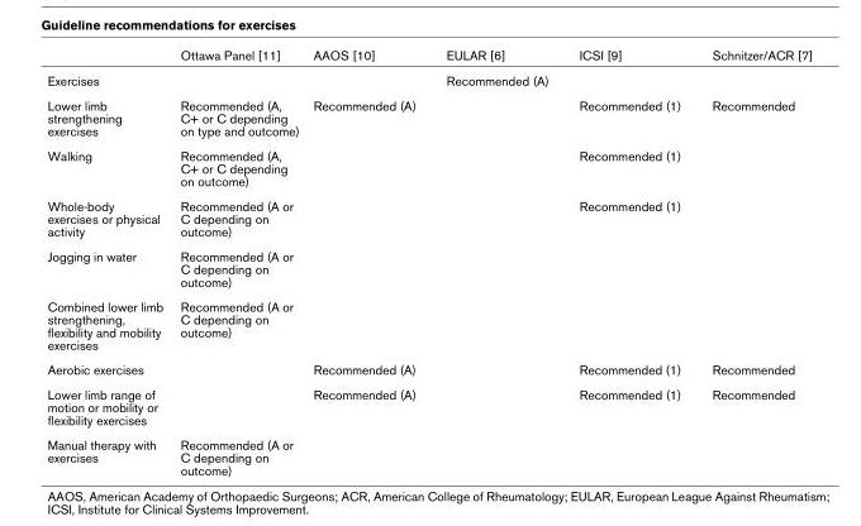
<table><thead><tr><td></td><td>Ottawa Panel [11]</td><td>AAOS [10]</td><td>EULAR [6]</td><td>ICSI [9]</td><td>Schnitzer/ACR [7]</td></tr></thead><tbody><tr><td>Exercises</td><td></td><td></td><td>Recommended (A)</td><td></td><td></td></tr><tr><td>Lower limb strengthening exercises</td><td>Recommended (A, C+ or C depending on type and outcome)</td><td>Recommended (A)</td><td></td><td>Recommended (1)</td><td>Recommended</td></tr><tr><td>Walking</td><td>Recommended (A, C+ or C depending on outcome)</td><td></td><td></td><td>Recommended (1)</td><td></td></tr><tr><td>Whole-body exercises or physical activity</td><td>Recommended (A or C depending on outcome)</td><td></td><td></td><td>Recommended (1)</td><td></td></tr><tr><td>Jogging in water</td><td>Recommended (A or C depending on outcome)</td><td></td><td></td><td></td><td></td></tr><tr><td>Combined lower limb strengthening, flexibility and mobility exercises</td><td>Recommended (A or C depending on outcome)</td><td></td><td></td><td></td><td></td></tr><tr><td>Aerobic exercises</td><td></td><td>Recommended (A)</td><td></td><td>Recommended (1)</td><td>Recommended</td></tr><tr><td>Lower limb range of motion or mobility or flexibility exercises</td><td></td><td>Recommended (A)</td><td></td><td>Recommended (1)</td><td>Recommended</td></tr><tr><td>Manual therapy with exercises</td><td>Recommended (A or C depending on outcome)</td><td></td><td></td><td></td><td></td></tr></tbody></table>